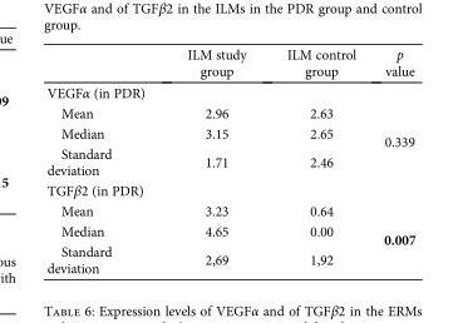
<table><thead><tr><td></td><td>ILM study group</td><td>ILM control group</td><td>p value</td></tr></thead><tbody><tr><td colspan="4">VEGFα (in PDR)</td></tr><tr><td>Mean</td><td>2.96</td><td>2.63</td><td rowspan="3">0.339</td></tr><tr><td>Median</td><td>3.15</td><td>2.65</td></tr><tr><td>Standard deviation</td><td>1.71</td><td>2.46</td></tr><tr><td colspan="4">TGFβ2 (in PDR)</td></tr><tr><td>Mean</td><td>3.23</td><td>0.64</td><td rowspan="3">0.007</td></tr><tr><td>Median</td><td>4.65</td><td>0.00</td></tr><tr><td>Standard deviation</td><td>2,69</td><td>1,92</td></tr></tbody></table>